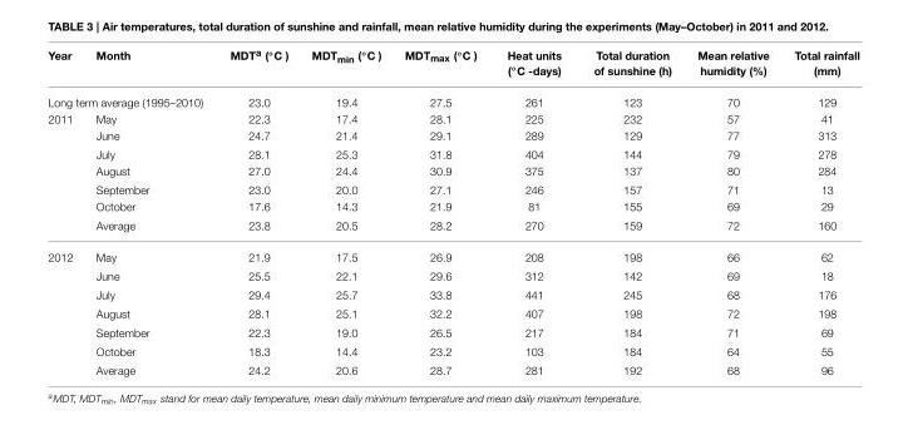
<table><thead><tr><td>Year</td><td>Month</td><td>MDTa (◦C )</td><td>MDTmin (◦C )</td><td>MDTmax (◦C )</td><td>Heat units (◦C -days)</td><td>Total duration of sunshine (h)</td><td>Mean relative humidity (%)</td><td>Total rainfall (mm)</td></tr></thead><tbody><tr><td colspan="2">Long term average (1995–2010)</td><td>23.0</td><td>19.4</td><td>27.5</td><td>261</td><td>123</td><td>70</td><td>129</td></tr><tr><td rowspan="7">2011</td><td>May</td><td>22.3</td><td>17.4</td><td>28.1</td><td>225</td><td>232</td><td>57</td><td>41</td></tr><tr><td>June</td><td>24.7</td><td>21.4</td><td>29.1</td><td>289</td><td>129</td><td>77</td><td>313</td></tr><tr><td>July</td><td>28.1</td><td>25.3</td><td>31.8</td><td>404</td><td>144</td><td>79</td><td>278</td></tr><tr><td>August</td><td>27.0</td><td>24.4</td><td>30.9</td><td>375</td><td>137</td><td>80</td><td>284</td></tr><tr><td>September</td><td>23.0</td><td>20.0</td><td>27.1</td><td>246</td><td>157</td><td>71</td><td>13</td></tr><tr><td>October</td><td>17.6</td><td>14.3</td><td>21.9</td><td>81</td><td>155</td><td>69</td><td>29</td></tr><tr><td>Average</td><td>23.8</td><td>20.5</td><td>28.2</td><td>270</td><td>159</td><td>72</td><td>160</td></tr><tr><td rowspan="7">2012</td><td>May</td><td>21.9</td><td>17.5</td><td>26.9</td><td>208</td><td>198</td><td>66</td><td>62</td></tr><tr><td>June</td><td>25.5</td><td>22.1</td><td>29.6</td><td>312</td><td>142</td><td>69</td><td>18</td></tr><tr><td>July</td><td>29.4</td><td>25.7</td><td>33.8</td><td>441</td><td>245</td><td>68</td><td>176</td></tr><tr><td>August</td><td>28.1</td><td>25.1</td><td>32.2</td><td>407</td><td>198</td><td>72</td><td>198</td></tr><tr><td>September</td><td>22.3</td><td>19.0</td><td>26.5</td><td>217</td><td>184</td><td>71</td><td>69</td></tr><tr><td>October</td><td>18.3</td><td>14.4</td><td>23.2</td><td>103</td><td>184</td><td>64</td><td>55</td></tr><tr><td>Average</td><td>24.2</td><td>20.6</td><td>28.7</td><td>281</td><td>192</td><td>68</td><td>96</td></tr></tbody></table>